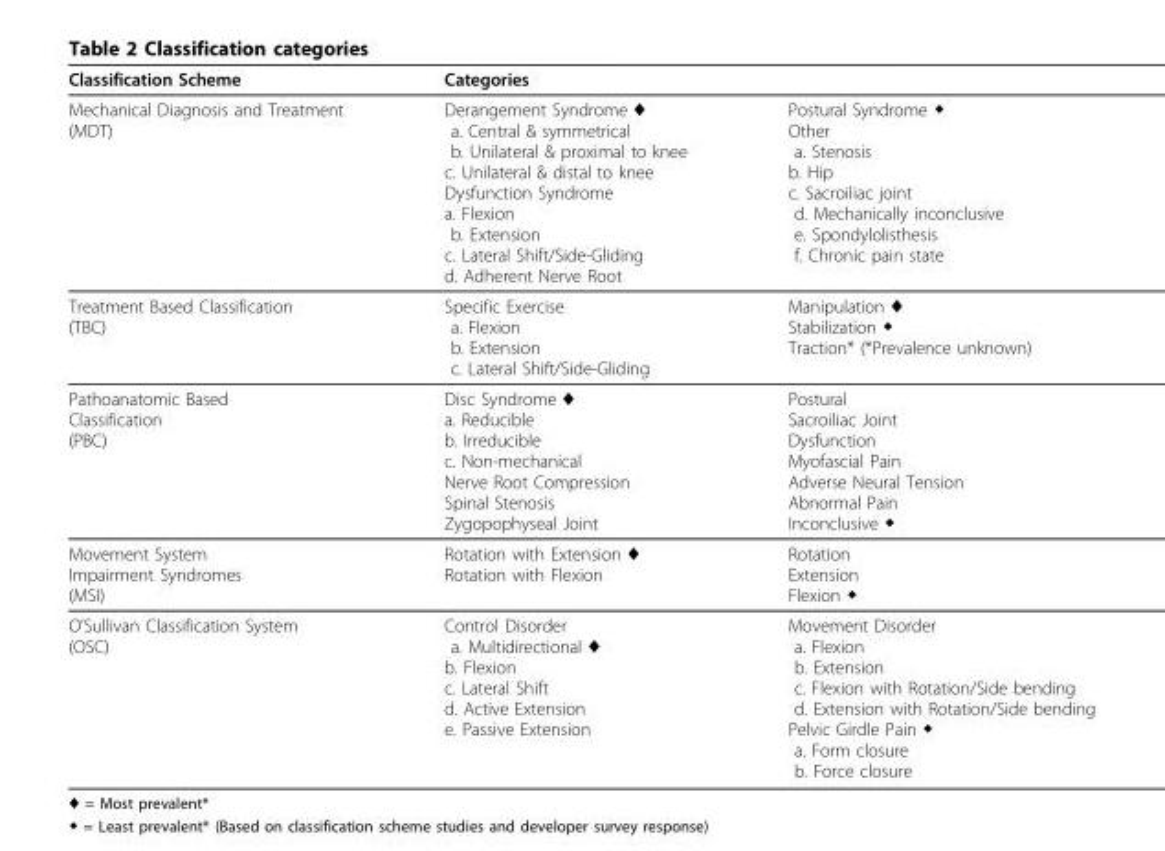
<table><thead><tr><td rowspan="2">Classification Scheme Mechanical Diagnosis and Treatment (MDT)</td><td colspan="2">Categories</td></tr><tr><td>Derangement Syndrome ♦ a. Central &amp; symmetrical b. Unilateral &amp; proximal to knee c. Unilateral &amp; distal to knee Dysfunction Syndrome a. Flexion b. Extension c. Lateral Shift/Side-Gliding d. Adherent Nerve Root</td><td>Postural Syndrome ◆ Other a. Stenosis b. Hip c. Sacroiliac joint d. Mechanically inconclusive e. Spondylolisthesis f. Chronic pain state</td></tr></thead><tbody><tr><td>Treatment Based Classification (TBC)</td><td>Specific Exercise a. Flexion b. Extension c. Lateral Shift/Side-Gliding</td><td>Manipulation ♦ Stabilization ◆ Traction* (*Prevalence unknown)</td></tr><tr><td>Pathoanatomic Based Classification (PBC)</td><td>Disc Syndrome ♦ a. Reducible b. Irreducible c. Non-mechanical Nerve Root Compression Spinal Stenosis Zygopophyseal Joint</td><td>Postural Sacroiliac Joint Dysfunction Myofascial Pain Adverse Neural Tension Abnormal Pain Inconclusive ◆</td></tr><tr><td>Movement System Impairment Syndromes (MSI)</td><td>Rotation with Extension ♦ Rotation with Flexion</td><td>Rotation Extension Flexion ◆</td></tr><tr><td>O’Sullivan Classification System (OSC)</td><td>Control Disorder a. Multidirectional ♦ b. Flexion c. Lateral Shift d. Active Extension e. Passive Extension</td><td>Movement Disorder a. Flexion b. Extension c. Flexion with Rotation/Side bending d. Extension with Rotation/Side bending Pelvic Girdle Pain ◆ a. Form closure b. Force closure</td></tr></tbody></table>